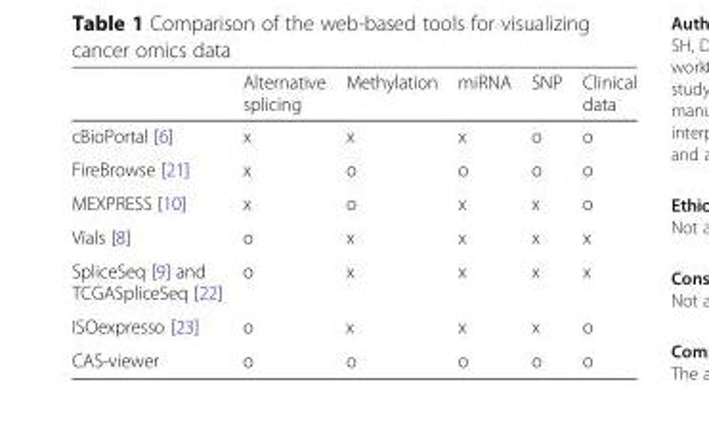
<table><thead><tr><td></td><td>Alternative splicing</td><td>Methylation</td><td>miRNA</td><td>SNP</td><td>Clinical data</td></tr></thead><tbody><tr><td>cBioPortal [6]</td><td>x</td><td>x</td><td>x</td><td>o</td><td>o</td></tr><tr><td>FireBrowse [21]</td><td>x</td><td>o</td><td>o</td><td>o</td><td>o</td></tr><tr><td>MEXPRESS [10]</td><td>x</td><td>o</td><td>x</td><td>x</td><td>o</td></tr><tr><td>Vials [8]</td><td>o</td><td>x</td><td>x</td><td>x</td><td>x</td></tr><tr><td>SpliceSeq [9] and TCGASpliceSeq [22]</td><td>o</td><td>x</td><td>x</td><td>x</td><td>x</td></tr><tr><td>ISOexpresso [23]</td><td>o</td><td>x</td><td>x</td><td>x</td><td>o</td></tr><tr><td>CAS-viewer</td><td>o</td><td>o</td><td>o</td><td>o</td><td>o</td></tr></tbody></table>